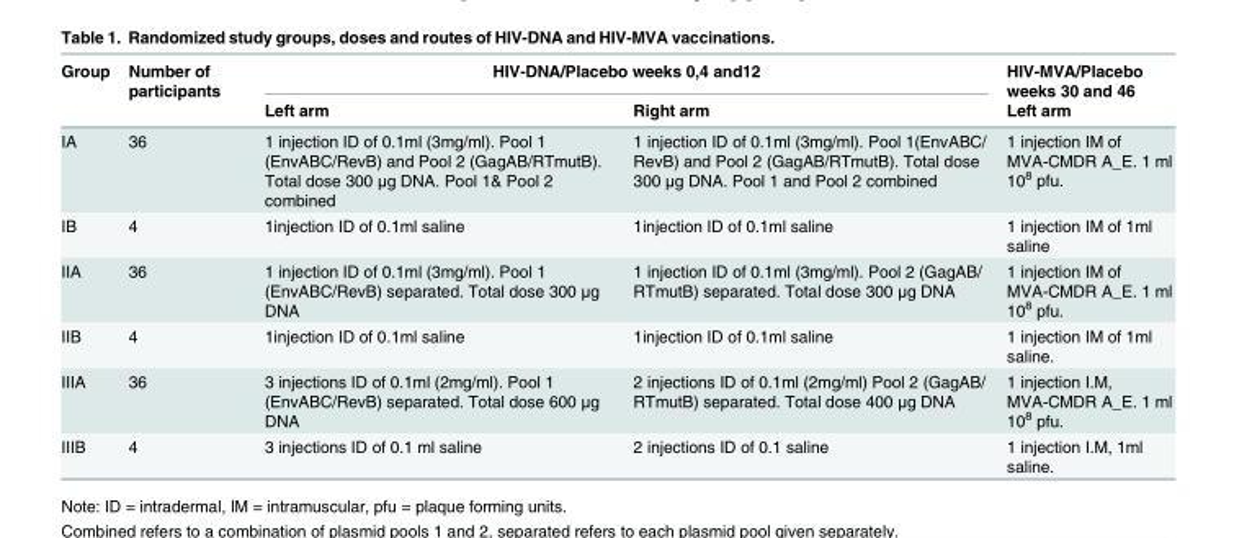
<table><thead><tr><td rowspan="2">Group</td><td rowspan="2">Number of participants</td><td colspan="2">HIV-DNA/Placebo weeks 0,4 and12</td><td rowspan="2">HIV-MVA/Placebo weeks 30 and 46 Left arm</td></tr><tr><td>Left arm</td><td>Right arm</td></tr></thead><tbody><tr><td>IA</td><td>36</td><td>1 injection ID of 0.1ml (3mg/ml). Pool 1 (EnvABC/RevB) and Pool 2 (GagAB/RTmutB). Total dose 300 μg DNA. Pool 1&amp; Pool 2 combined</td><td>1 injection ID of 0.1ml (3mg/ml). Pool 1(EnvABC/ RevB) and Pool 2 (GagAB/RTmutB). Total dose 300 μg DNA. Pool 1 and Pool 2 combined</td><td>1 injection IM of MVA-CMDR A_E. 1 ml 10<sup>8</sup> pfu.</td></tr><tr><td>IB</td><td>4</td><td>1injection ID of 0.1ml saline</td><td>1injection ID of 0.1ml saline</td><td>1 injection IM of 1ml saline</td></tr><tr><td>IIA</td><td>36</td><td>1 injection ID of 0.1ml (3mg/ml). Pool 1 (EnvABC/RevB) separated. Total dose 300 μg DNA</td><td>1 injection ID of 0.1ml (3mg/ml). Pool 2 (GagAB/ RTmutB) separated. Total dose 300 μg DNA</td><td>1 injection IM of MVA-CMDR A_E. 1 ml 10<sup>8</sup> pfu.</td></tr><tr><td>IIB</td><td>4</td><td>1injection ID of 0.1ml saline</td><td>1injection ID of 0.1ml saline</td><td>1 injection IM of 1ml saline.</td></tr><tr><td>IIIA</td><td>36</td><td>3 injections ID of 0.1ml (2mg/ml). Pool 1 (EnvABC/RevB) separated. Total dose 600 μg DNA</td><td>2 injections ID of 0.1ml (2mg/ml) Pool 2 (GagAB/ RTmutB) separated. Total dose 400 μg DNA</td><td>1 injection I.M, MVA-CMDR A_E. 1 ml 10<sup>8</sup> pfu.</td></tr><tr><td>IIIB</td><td>4</td><td>3 injections ID of 0.1 ml saline</td><td>2 injections ID of 0.1 saline</td><td>1 injection I.M, 1ml saline.</td></tr></tbody></table>